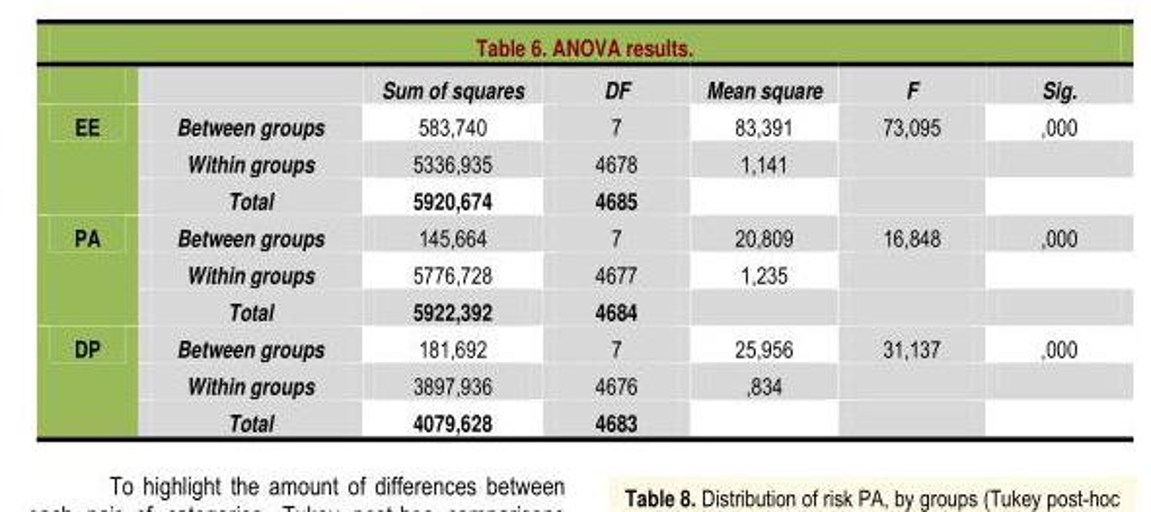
<table><thead><tr><td></td><td></td><td>Sum of squares</td><td>DF</td><td>Mean square</td><td>F</td><td>Sig.</td></tr></thead><tbody><tr><td rowspan="3">EE</td><td>Between groups</td><td>583,740</td><td>7</td><td>83,391</td><td>73,095</td><td>,000</td></tr><tr><td>Within groups</td><td>5336,935</td><td>4678</td><td>1,141</td><td></td><td></td></tr><tr><td>Total</td><td>5920,674</td><td>4685</td><td></td><td></td><td></td></tr><tr><td rowspan="3">PA</td><td>Between groups</td><td>145,664</td><td>7</td><td>20,809</td><td>16,848</td><td>,000</td></tr><tr><td>Within groups</td><td>5776,728</td><td>4677</td><td>1,235</td><td></td><td></td></tr><tr><td>Total</td><td>5922,392</td><td>4684</td><td></td><td></td><td></td></tr><tr><td rowspan="3">DP</td><td>Between groups</td><td>181,692</td><td>7</td><td>25,956</td><td>31,137</td><td>,000</td></tr><tr><td>Within groups</td><td>3897,936</td><td>4676</td><td>,834</td><td></td><td></td></tr><tr><td>Total</td><td>4079,628</td><td>4683</td><td></td><td></td><td></td></tr></tbody></table>